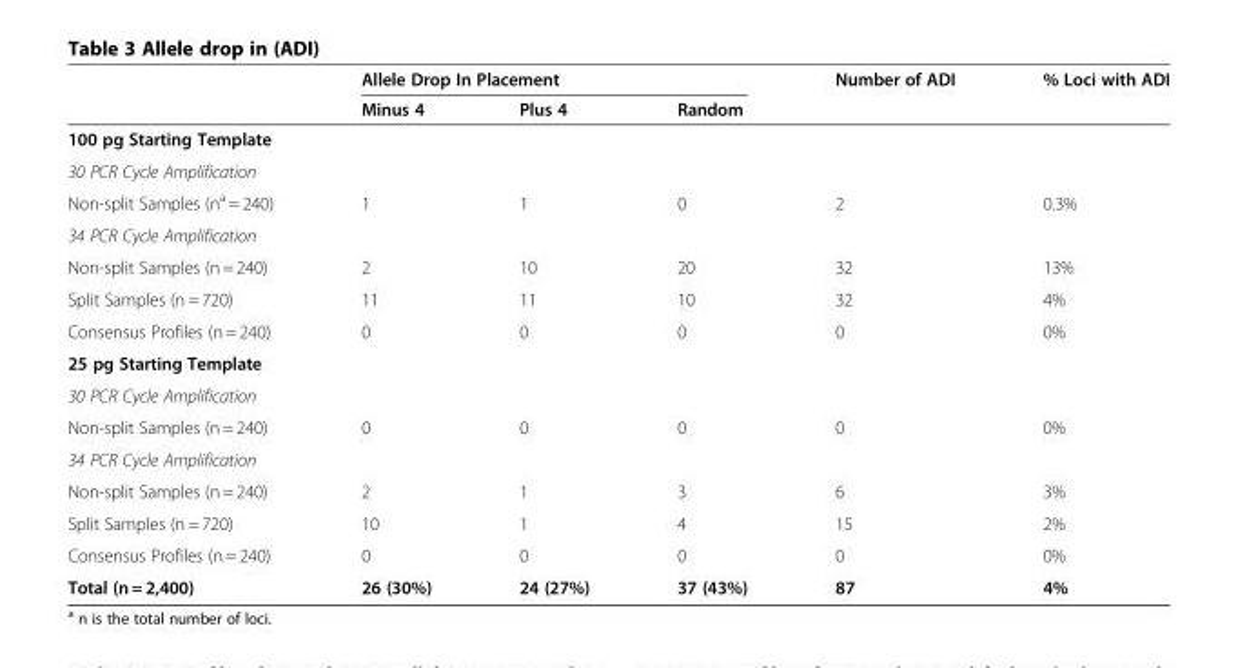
<table><thead><tr><td rowspan="2"></td><td colspan="3">Allele Drop In Placement</td><td rowspan="2">Number of ADI</td><td rowspan="2">% Loci with ADI</td></tr><tr><td>Minus 4</td><td>Plus 4</td><td>Random</td></tr></thead><tbody><tr><td colspan="6">100 pg Starting Template</td></tr><tr><td colspan="6">30 PCR Cycle Amplification</td></tr><tr><td>Non-split Samples (n<sup>a</sup> = 240)</td><td>1</td><td>1</td><td>0</td><td>2</td><td>0.3%</td></tr><tr><td colspan="6">34 PCR Cycle Amplification</td></tr><tr><td>Non-split Samples (n = 240)</td><td>2</td><td>10</td><td>20</td><td>32</td><td>13%</td></tr><tr><td>Split Samples (n = 720)</td><td>11</td><td>11</td><td>10</td><td>32</td><td>4%</td></tr><tr><td>Consensus Profiles (n = 240)</td><td>0</td><td>0</td><td>0</td><td>0</td><td>0%</td></tr><tr><td colspan="6">25 pg Starting Template</td></tr><tr><td colspan="6">30 PCR Cycle Amplification</td></tr><tr><td>Non-split Samples (n = 240)</td><td>0</td><td>0</td><td>0</td><td>0</td><td>0%</td></tr><tr><td colspan="6">34 PCR Cycle Amplification</td></tr><tr><td>Non-split Samples (n = 240)</td><td>2</td><td>1</td><td>3</td><td>6</td><td>3%</td></tr><tr><td>Split Samples (n = 720)</td><td>10</td><td>1</td><td>4</td><td>15</td><td>2%</td></tr><tr><td>Consensus Profiles (n = 240)</td><td>0</td><td>0</td><td>0</td><td>0</td><td>0%</td></tr><tr><td>Total (n = 2,400)</td><td>26 (30%)</td><td>24 (27%)</td><td>37 (43%)</td><td>87</td><td>4%</td></tr></tbody></table>